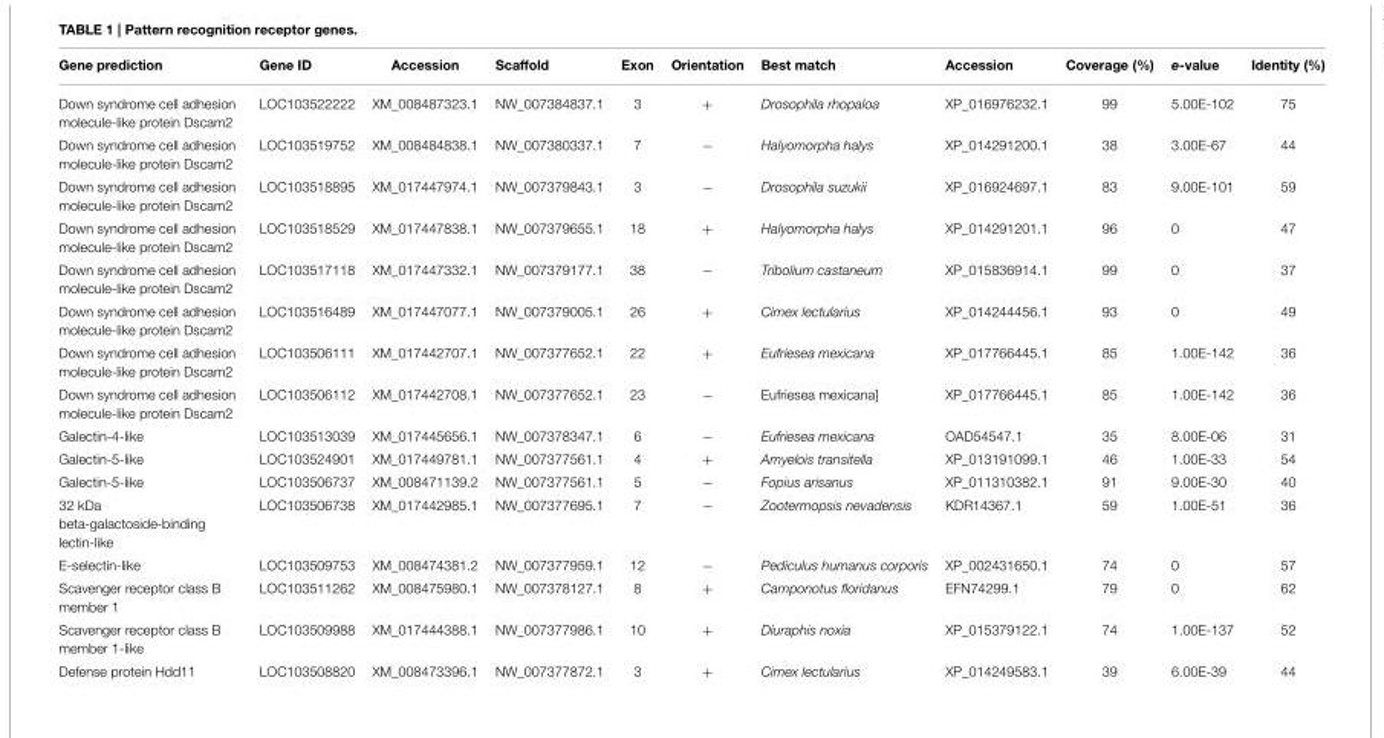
<table><thead><tr><td>Gene prediction</td><td>Gene ID</td><td>Accession</td><td>Scaffold</td><td>Exon</td><td>Orientation</td><td>Best match</td><td>Accession</td><td>Coverage (%)</td><td>e-value</td><td>Identity (%)</td></tr></thead><tbody><tr><td>Down syndrome cell adhesion molecule-like protein Dscam2</td><td>LOC103522222</td><td>XM_008487323.1</td><td>NW_007384837.1</td><td>3</td><td>+</td><td>Drosophila rhopaloa</td><td>XP_016976232.1</td><td>99</td><td>5.00E-102</td><td>75</td></tr><tr><td>Down syndrome cell adhesion molecule-like protein Dscam2</td><td>LOC103519752</td><td>XM_008484838.1</td><td>NW_007380337.1</td><td>7</td><td>−</td><td>Halyomorpha halys</td><td>XP_014291200.1</td><td>38</td><td>3.00E-67</td><td>44</td></tr><tr><td>Down syndrome cell adhesion molecule-like protein Dscam2</td><td>LOC103518895</td><td>XM_017447974.1</td><td>NW_007379843.1</td><td>3</td><td>−</td><td>Drosophila suzukii</td><td>XP_016924697.1</td><td>83</td><td>9.00E-101</td><td>59</td></tr><tr><td>Down syndrome cell adhesion molecule-like protein Dscam2</td><td>LOC103518529</td><td>XM_017447838.1</td><td>NW_007379655.1</td><td>18</td><td>+</td><td>Halyomorpha halys</td><td>XP_014291201.1</td><td>96</td><td>0</td><td>47</td></tr><tr><td>Down syndrome cell adhesion molecule-like protein Dscam2</td><td>LOC103517118</td><td>XM_017447332.1</td><td>NW_007379177.1</td><td>38</td><td>−</td><td>Tribolium castaneum</td><td>XP_015836914.1</td><td>99</td><td>0</td><td>37</td></tr><tr><td>Down syndrome cell adhesion molecule-like protein Dscam2</td><td>LOC103516489</td><td>XM_017447077.1</td><td>NW_007379005.1</td><td>26</td><td>+</td><td>Cimex lectularius</td><td>XP_014244456.1</td><td>93</td><td>0</td><td>49</td></tr><tr><td>Down syndrome cell adhesion molecule-like protein Dscam2</td><td>LOC103506111</td><td>XM_017442707.1</td><td>NW_007377652.1</td><td>22</td><td>+</td><td>Eufriesea mexicana</td><td>XP_017766445.1</td><td>85</td><td>1.00E-142</td><td>36</td></tr><tr><td>Down syndrome cell adhesion molecule-like protein Dscam2</td><td>LOC103506112</td><td>XM_017442708.1</td><td>NW_007377652.1</td><td>23</td><td>−</td><td>Eufriesea mexicana]</td><td>XP_017766445.1</td><td>85</td><td>1.00E-142</td><td>36</td></tr><tr><td>Galectin-4-like</td><td>LOC103513039</td><td>XM_017445656.1</td><td>NW_007378347.1</td><td>6</td><td>−</td><td>Eufriesea mexicana</td><td>OAD54547.1</td><td>35</td><td>8.00E-06</td><td>31</td></tr><tr><td>Galectin-5-like</td><td>LOC103524901</td><td>XM_017449781.1</td><td>NW_007377561.1</td><td>4</td><td>+</td><td>Amyelois transitella</td><td>XP_013191099.1</td><td>46</td><td>1.00E-33</td><td>54</td></tr><tr><td>Galectin-5-like</td><td>LOC103506737</td><td>XM_008471139.2</td><td>NW_007377561.1</td><td>5</td><td>−</td><td>Fopius arisanus</td><td>XP_011310382.1</td><td>91</td><td>9.00E-30</td><td>40</td></tr><tr><td>32 kDa beta-galactoside-binding lectin-like</td><td>LOC103506738</td><td>XM_017442985.1</td><td>NW_007377695.1</td><td>7</td><td>−</td><td>Zootermopsis nevadensis</td><td>KDR14367.1</td><td>59</td><td>1.00E-51</td><td>36</td></tr><tr><td>E-selectin-like</td><td>LOC103509753</td><td>XM_008474381.2</td><td>NW_007377959.1</td><td>12</td><td>−</td><td>Pediculus humanus corporis</td><td>XP_002431650.1</td><td>74</td><td>0</td><td>57</td></tr><tr><td>Scavenger receptor class B member 1</td><td>LOC103511262</td><td>XM_008475980.1</td><td>NW_007378127.1</td><td>8</td><td>+</td><td>Camponotus floridanus</td><td>EFN74299.1</td><td>79</td><td>0</td><td>62</td></tr><tr><td>Scavenger receptor class B member 1-like</td><td>LOC103509988</td><td>XM_017444388.1</td><td>NW_007377986.1</td><td>10</td><td>+</td><td>Diuraphis noxia</td><td>XP_015379122.1</td><td>74</td><td>1.00E-137</td><td>52</td></tr><tr><td>Defense protein Hdd11</td><td>LOC103508820</td><td>XM_008473396.1</td><td>NW_007377872.1</td><td>3</td><td>+</td><td>Cimex lectularius</td><td>XP_014249583.1</td><td>39</td><td>6.00E-39</td><td>44</td></tr></tbody></table>